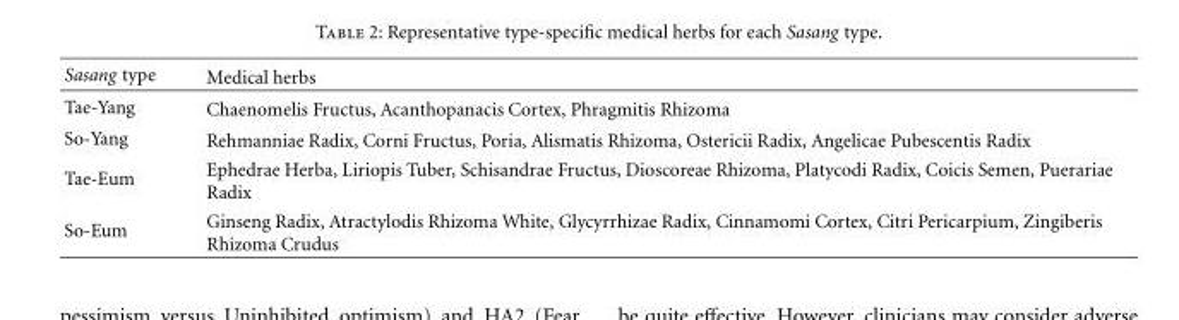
<table><thead><tr><td>Sasang type</td><td>Medical herbs</td></tr></thead><tbody><tr><td>Tae-Yang</td><td>Chaenomelis Fructus, Acanthopanacis Cortex, Phragmitis Rhizoma</td></tr><tr><td>So-Yang</td><td>Rehmanniae Radix, Corni Fructus, Poria, Alismatis Rhizoma, Ostericii Radix, Angelicae Pubescentis Radix</td></tr><tr><td>Tae-Eum</td><td>Ephedrae Herba, Liriopis Tuber, Schisandrae Fructus, Dioscoreae Rhizoma, Platycodi Radix, Coicis Semen, Puerariae Radix</td></tr><tr><td>So-Eum</td><td>Ginseng Radix, Atractylodis Rhizoma White, Glycyrrhizae Radix, Cinnamomi Cortex, Citri Pericarpium, Zingiberis Rhizoma Crudus</td></tr></tbody></table>